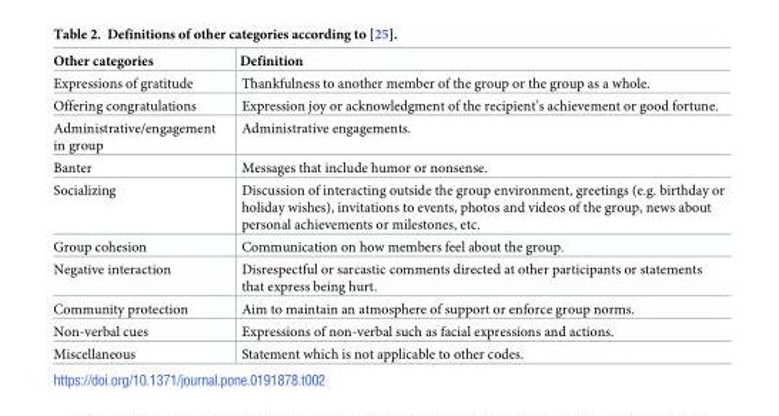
<table><thead><tr><td>Other categories</td><td>Definition</td></tr></thead><tbody><tr><td>Expressions of gratitude</td><td>Thankfulness to another member of the group or the group as a whole.</td></tr><tr><td>Offering congratulations</td><td>Expression joy or acknowledgment of the recipient’s achievement or good fortune.</td></tr><tr><td>Administrative/engagement in group</td><td>Administrative engagements.</td></tr><tr><td>Banter</td><td>Messages that include humor or nonsense.</td></tr><tr><td>Socializing</td><td>Discussion of interacting outside the group environment, greetings (e.g. birthday or holiday wishes), invitations to events, photos and videos of the group, news about personal achievements or milestones, etc.</td></tr><tr><td>Group cohesion</td><td>Communication on how members feel about the group.</td></tr><tr><td>Negative interaction</td><td>Disrespectful or sarcastic comments directed at other participants or statements that express being hurt.</td></tr><tr><td>Community protection</td><td>Aim to maintain an atmosphere of support or enforce group norms.</td></tr><tr><td>Non-verbal cues</td><td>Expressions of non-verbal such as facial expressions and actions.</td></tr><tr><td>Miscellaneous</td><td>Statement which is not applicable to other codes.</td></tr></tbody></table>